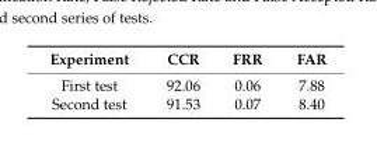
<table><thead><tr><td>Experiment</td><td>CCR</td><td>FRR</td><td>FAR</td></tr></thead><tbody><tr><td>First test</td><td>92.06</td><td>0.06</td><td>7.88</td></tr><tr><td>Second test</td><td>91.53</td><td>0.07</td><td>8.40</td></tr></tbody></table>